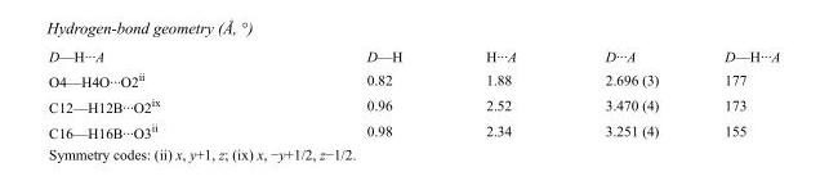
<table><tbody><tr><td>D—H···A</td><td>D—H</td><td>H···A</td><td>D···A</td><td>D—H···A</td></tr><tr><td>O4—H4O···O2<sup>ii</sup></td><td>0.82</td><td>1.88</td><td>2.696 (3)</td><td>177</td></tr><tr><td>C12—H12B···O2<sup>ix</sup></td><td>0.96</td><td>2.52</td><td>3.470 (4)</td><td>173</td></tr><tr><td>C16—H16B···O3<sup>ii</sup></td><td>0.98</td><td>2.34</td><td>3.251 (4)</td><td>155</td></tr></tbody></table>